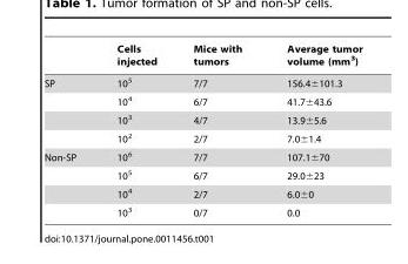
<table><thead><tr><td></td><td>Cells injected</td><td>Mice with tumors</td><td>Average tumor volume (mm<sup>3</sup>)</td></tr></thead><tbody><tr><td rowspan="4">SP</td><td>10<sup>5</sup></td><td>7/7</td><td>156.4±101.3</td></tr><tr><td>10<sup>4</sup></td><td>6/7</td><td>41.7±43.6</td></tr><tr><td>10<sup>3</sup></td><td>4/7</td><td>13.9±5.6</td></tr><tr><td>10<sup>2</sup></td><td>2/7</td><td>7.0±1.4</td></tr><tr><td rowspan="4">Non-SP</td><td>10<sup>6</sup></td><td>7/7</td><td>107.1±70</td></tr><tr><td>10<sup>5</sup></td><td>6/7</td><td>29.0±23</td></tr><tr><td>10<sup>4</sup></td><td>2/7</td><td>6.0±0</td></tr><tr><td>10<sup>3</sup></td><td>0/7</td><td>0.0</td></tr></tbody></table>